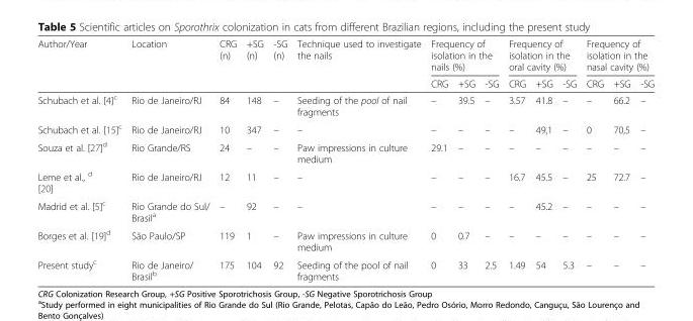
<table><thead><tr><td rowspan="2">Author/Year</td><td rowspan="2">Location</td><td rowspan="2">CRG (n)</td><td rowspan="2">+SG (n)</td><td rowspan="2">-SG (n)</td><td rowspan="2">Technique used to investigate the nails</td><td colspan="3">Frequency of isolation in the nails (%)</td><td colspan="3">Frequency of isolation in the oral cavity (%)</td><td colspan="3">Frequency of isolation in the nasal cavity (%)</td></tr><tr><td>CRG</td><td>+SG</td><td>-SG</td><td>CRG</td><td>+SG</td><td>-SG</td><td>CRG</td><td>+SG</td><td>-SG</td></tr></thead><tbody><tr><td>Schubach et al. [4]<sup>c</sup></td><td>Rio de Janeiro/RJ</td><td>84</td><td>148</td><td>–</td><td>Seeding of the pool of nail fragments</td><td>–</td><td>39.5</td><td>–</td><td>3.57</td><td>41.8</td><td>–</td><td>–</td><td>66.2</td><td>–</td></tr><tr><td>Schubach et al. [15]<sup>c</sup></td><td>Rio de Janeiro/RJ</td><td>10</td><td>347</td><td>–</td><td>–</td><td>–</td><td>–</td><td>–</td><td>–</td><td>49,1</td><td>–</td><td>0</td><td>70,5</td><td>–</td></tr><tr><td>Souza et al. [27]<sup>d</sup></td><td>Rio Grande/RS</td><td>24</td><td>–</td><td>–</td><td>Paw impressions in culture medium</td><td>29.1</td><td>–</td><td>–</td><td>–</td><td>–</td><td>–</td><td>–</td><td>–</td><td>–</td></tr><tr><td>Leme et al., <sup>d</sup> [20]</td><td>Rio de Janeiro/RJ</td><td>12</td><td>11</td><td>–</td><td>–</td><td>–</td><td>–</td><td>–</td><td>16.7</td><td>45.5</td><td>–</td><td>25</td><td>72.7</td><td>–</td></tr><tr><td>Madrid et al. [5]<sup>c</sup></td><td>Rio Grande do Sul/ Brasil<sup>a</sup></td><td>–</td><td>92</td><td>–</td><td>–</td><td>–</td><td>–</td><td>–</td><td>–</td><td>45.2</td><td>–</td><td>–</td><td>–</td><td>–</td></tr><tr><td>Borges et al. [19]<sup>d</sup></td><td>São Paulo/SP</td><td>119</td><td>1</td><td>–</td><td>Paw impressions in culture medium</td><td>0</td><td>0.7</td><td>–</td><td>–</td><td>–</td><td>–</td><td>–</td><td>–</td><td>–</td></tr><tr><td>Present study<sup>c</sup></td><td>Rio de Janeiro/ Brasil<sup>b</sup></td><td>175</td><td>104</td><td>92</td><td>Seeding of the pool of nail fragments</td><td>0</td><td>33</td><td>2.5</td><td>1.49</td><td>54</td><td>5.3</td><td>–</td><td>–</td><td>–</td></tr></tbody></table>